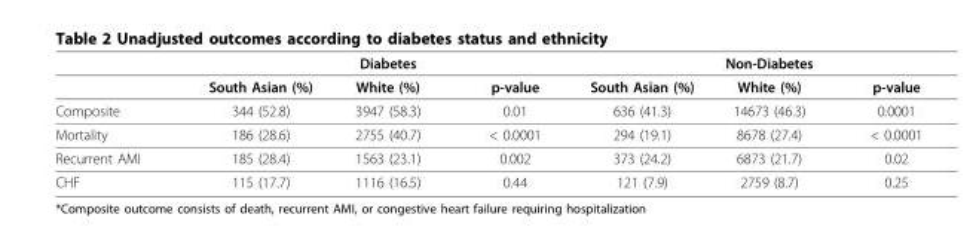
<table><thead><tr><td rowspan="2"></td><td colspan="3">Diabetes</td><td colspan="3">Non-Diabetes</td></tr><tr><td>South Asian (%)</td><td>White (%)</td><td>p-value</td><td>South Asian (%)</td><td>White (%)</td><td>p-value</td></tr></thead><tbody><tr><td>Composite</td><td>344 (52.8)</td><td>3947 (58.3)</td><td>0.01</td><td>636 (41.3)</td><td>14673 (46.3)</td><td>0.0001</td></tr><tr><td>Mortality</td><td>186 (28.6)</td><td>2755 (40.7)</td><td>&lt; 0.0001</td><td>294 (19.1)</td><td>8678 (27.4)</td><td>&lt; 0.0001</td></tr><tr><td>Recurrent AMI</td><td>185 (28.4)</td><td>1563 (23.1)</td><td>0.002</td><td>373 (24.2)</td><td>6873 (21.7)</td><td>0.02</td></tr><tr><td>CHF</td><td>115 (17.7)</td><td>1116 (16.5)</td><td>0.44</td><td>121 (7.9)</td><td>2759 (8.7)</td><td>0.25</td></tr></tbody></table>